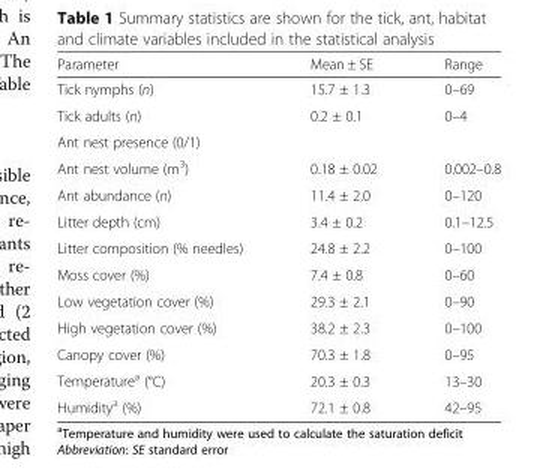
<table><thead><tr><td>Parameter</td><td>Mean ± SE</td><td>Range</td></tr></thead><tbody><tr><td>Tick nymphs (n)</td><td>15.7 ± 1.3</td><td>0–69</td></tr><tr><td>Tick adults (n)</td><td>0.2 ± 0.1</td><td>0–4</td></tr><tr><td colspan="3">Ant nest presence (0/1)</td></tr><tr><td>Ant nest volume (m<sup>3</sup>)</td><td>0.18 ± 0.02</td><td>0.002–0.8</td></tr><tr><td>Ant abundance (n)</td><td>11.4 ± 2.0</td><td>0–120</td></tr><tr><td>Litter depth (cm)</td><td>3.4 ± 0.2</td><td>0.1–12.5</td></tr><tr><td>Litter composition (% needles)</td><td>24.8 ± 2.2</td><td>0–100</td></tr><tr><td>Moss cover (%)</td><td>7.4 ± 0.8</td><td>0–60</td></tr><tr><td>Low vegetation cover (%)</td><td>29.3 ± 2.1</td><td>0–90</td></tr><tr><td>High vegetation cover (%)</td><td>38.2 ± 2.3</td><td>0–100</td></tr><tr><td>Canopy cover (%)</td><td>70.3 ± 1.8</td><td>0–95</td></tr><tr><td>Temperature<sup>a</sup> (°C)</td><td>20.3 ± 0.3</td><td>13–30</td></tr><tr><td>Humidity<sup>a</sup> (%)</td><td>72.1 ± 0.8</td><td>42–95</td></tr></tbody></table>